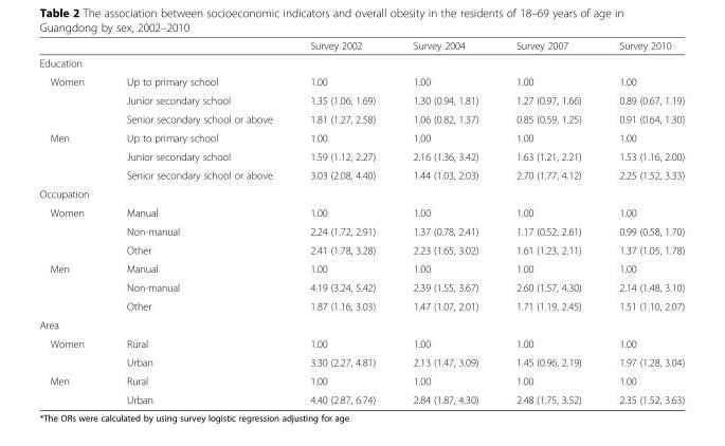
<table><thead><tr><td></td><td></td><td>Survey 2002</td><td>Survey 2004</td><td>Survey 2007</td><td>Survey 2010</td></tr></thead><tbody><tr><td colspan="6">Education</td></tr><tr><td rowspan="3">Women</td><td>Up to primary school</td><td>1.00</td><td>1.00</td><td>1.00</td><td>1.00</td></tr><tr><td>Junior secondary school</td><td>1.35 (1.06, 1.69)</td><td>1.30 (0.94, 1.81)</td><td>1.27 (0.97, 1.66)</td><td>0.89 (0.67, 1.19)</td></tr><tr><td>Senior secondary school or above</td><td>1.81 (1.27, 2.58)</td><td>1.06 (0.82, 1.37)</td><td>0.85 (0.59, 1.25)</td><td>0.91 (0.64, 1.30)</td></tr><tr><td rowspan="3">Men</td><td>Up to primary school</td><td>1.00</td><td>1.00</td><td>1.00</td><td>1.00</td></tr><tr><td>Junior secondary school</td><td>1.59 (1.12, 2.27)</td><td>2.16 (1.36, 3.42)</td><td>1.63 (1.21, 2.21)</td><td>1.53 (1.16, 2.00)</td></tr><tr><td>Senior secondary school or above</td><td>3.03 (2.08, 4.40)</td><td>1.44 (1.03, 2.03)</td><td>2.70 (1.77, 4.12)</td><td>2.25 (1.52, 3.33)</td></tr><tr><td colspan="6">Occupation</td></tr><tr><td rowspan="3">Women</td><td>Manual</td><td>1.00</td><td>1.00</td><td>1.00</td><td>1.00</td></tr><tr><td>Non-manual</td><td>2.24 (1.72, 2.91)</td><td>1.37 (0.78, 2.41)</td><td>1.17 (0.52, 2.61)</td><td>0.99 (0.58, 1.70)</td></tr><tr><td>Other</td><td>2.41 (1.78, 3.28)</td><td>2.23 (1.65, 3.02)</td><td>1.61 (1.23, 2.11)</td><td>1.37 (1.05, 1.78)</td></tr><tr><td rowspan="3">Men</td><td>Manual</td><td>1.00</td><td>1.00</td><td>1.00</td><td>1.00</td></tr><tr><td>Non-manual</td><td>4.19 (3.24, 5.42)</td><td>2.39 (1.55, 3.67)</td><td>2.60 (1.57, 4.30)</td><td>2.14 (1.48, 3.10)</td></tr><tr><td>Other</td><td>1.87 (1.16, 3.03)</td><td>1.47 (1.07, 2.01)</td><td>1.71 (1.19, 2.45)</td><td>1.51 (1.10, 2.07)</td></tr><tr><td colspan="6">Area</td></tr><tr><td rowspan="2">Women</td><td>Rural</td><td>1.00</td><td>1.00</td><td>1.00</td><td>1.00</td></tr><tr><td>Urban</td><td>3.30 (2.27, 4.81)</td><td>2.13 (1.47, 3.09)</td><td>1.45 (0.96, 2.19)</td><td>1.97 (1.28, 3.04)</td></tr><tr><td rowspan="2">Men</td><td>Rural</td><td>1.00</td><td>1.00</td><td>1.00</td><td>1.00</td></tr><tr><td>Urban</td><td>4.40 (2.87, 6.74)</td><td>2.84 (1.87, 4.30)</td><td>2.48 (1.75, 3.52)</td><td>2.35 (1.52, 3.63)</td></tr></tbody></table>